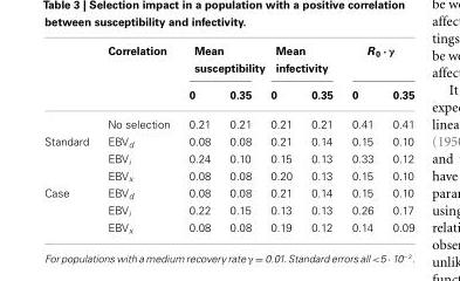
<table><thead><tr><td rowspan="2"></td><td rowspan="2">Correlation</td><td colspan="2">Mean susceptibility</td><td colspan="2">Mean infectivity</td><td colspan="2">R<sub>0</sub> · γ</td></tr><tr><td>0</td><td>0.35</td><td>0</td><td>0.35</td><td>0</td><td>0.35</td></tr></thead><tbody><tr><td></td><td>No selection</td><td>0.21</td><td>0.21</td><td>0.21</td><td>0.21</td><td>0.41</td><td>0.41</td></tr><tr><td rowspan="3">Standard</td><td>EBV<sub>d</sub></td><td>0.08</td><td>0.08</td><td>0.21</td><td>0.14</td><td>0.15</td><td>0.10</td></tr><tr><td>EBV<sub>i</sub></td><td>0.24</td><td>0.10</td><td>0.15</td><td>0.13</td><td>0.33</td><td>0.12</td></tr><tr><td>EBV<sub>x</sub></td><td>0.08</td><td>0.08</td><td>0.20</td><td>0.13</td><td>0.15</td><td>0.10</td></tr><tr><td rowspan="3">Case</td><td>EBV<sub>d</sub></td><td>0.08</td><td>0.08</td><td>0.21</td><td>0.14</td><td>0.15</td><td>0.10</td></tr><tr><td>EBV<sub>i</sub></td><td>0.22</td><td>0.15</td><td>0.13</td><td>0.13</td><td>0.26</td><td>0.17</td></tr><tr><td>EBV<sub>x</sub></td><td>0.08</td><td>0.08</td><td>0.19</td><td>0.12</td><td>0.14</td><td>0.09</td></tr></tbody></table>